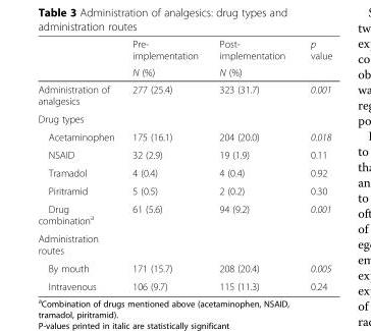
<table><thead><tr><td rowspan="2"></td><td rowspan="2">Pre- implementation N (%)</td><td rowspan="2">Post- implementation N (%)</td><td rowspan="2">p value</td></tr><tr></tr></thead><tbody><tr><td>Administration of analgesics</td><td>277 (25.4)</td><td>323 (31.7)</td><td>0.001</td></tr><tr><td colspan="4">Drug types</td></tr><tr><td>Acetaminophen</td><td>175 (16.1)</td><td>204 (20.0)</td><td>0.018</td></tr><tr><td>NSAID</td><td>32 (2.9)</td><td>19 (1.9)</td><td>0.11</td></tr><tr><td>Tramadol</td><td>4 (0.4)</td><td>4 (0.4)</td><td>0.92</td></tr><tr><td>Piritramid</td><td>5 (0.5)</td><td>2 (0.2)</td><td>0.30</td></tr><tr><td>Drug combination<sup>a</sup></td><td>61 (5.6)</td><td>94 (9.2)</td><td>0.001</td></tr><tr><td colspan="4">Administration routes</td></tr><tr><td>By mouth</td><td>171 (15.7)</td><td>208 (20.4)</td><td>0.005</td></tr><tr><td>Intravenous</td><td>106 (9.7)</td><td>115 (11.3)</td><td>0.24</td></tr></tbody></table>